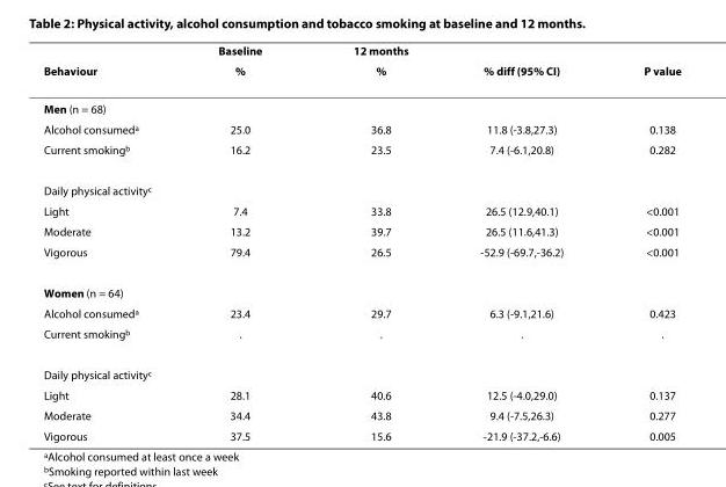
<table><thead><tr><td rowspan="2">Behaviour</td><td rowspan="2">Baseline %</td><td rowspan="2">12 months %</td><td rowspan="2">% diff (95% CI)</td><td rowspan="2">P value</td></tr><tr></tr></thead><tbody><tr><td colspan="5">Men (n = 68)</td></tr><tr><td>Alcohol consumed<sup>a</sup></td><td>25.0</td><td>36.8</td><td>11.8 (-3.8,27.3)</td><td>0.138</td></tr><tr><td>Current smoking<sup>b</sup></td><td>16.2</td><td>23.5</td><td>7.4 (-6.1,20.8)</td><td>0.282</td></tr><tr><td colspan="5">Daily physical activity<sup>c</sup></td></tr><tr><td>Light</td><td>7.4</td><td>33.8</td><td>26.5 (12.9,40.1)</td><td>&lt;0.001</td></tr><tr><td>Moderate</td><td>13.2</td><td>39.7</td><td>26.5 (11.6,41.3)</td><td>&lt;0.001</td></tr><tr><td>Vigorous</td><td>79.4</td><td>26.5</td><td>-52.9 (-69.7,-36.2)</td><td>&lt;0.001</td></tr><tr><td colspan="5">Women (n = 64)</td></tr><tr><td>Alcohol consumed<sup>a</sup></td><td>23.4</td><td>29.7</td><td>6.3 (-9.1,21.6)</td><td>0.423</td></tr><tr><td>Current smoking<sup>b</sup></td><td>.</td><td>.</td><td>.</td><td>.</td></tr><tr><td colspan="5">Daily physical activity<sup>c</sup></td></tr><tr><td>Light</td><td>28.1</td><td>40.6</td><td>12.5 (-4.0,29.0)</td><td>0.137</td></tr><tr><td>Moderate</td><td>34.4</td><td>43.8</td><td>9.4 (-7.5,26.3)</td><td>0.277</td></tr><tr><td>Vigorous</td><td>37.5</td><td>15.6</td><td>-21.9 (-37.2,-6.6)</td><td>0.005</td></tr></tbody></table>